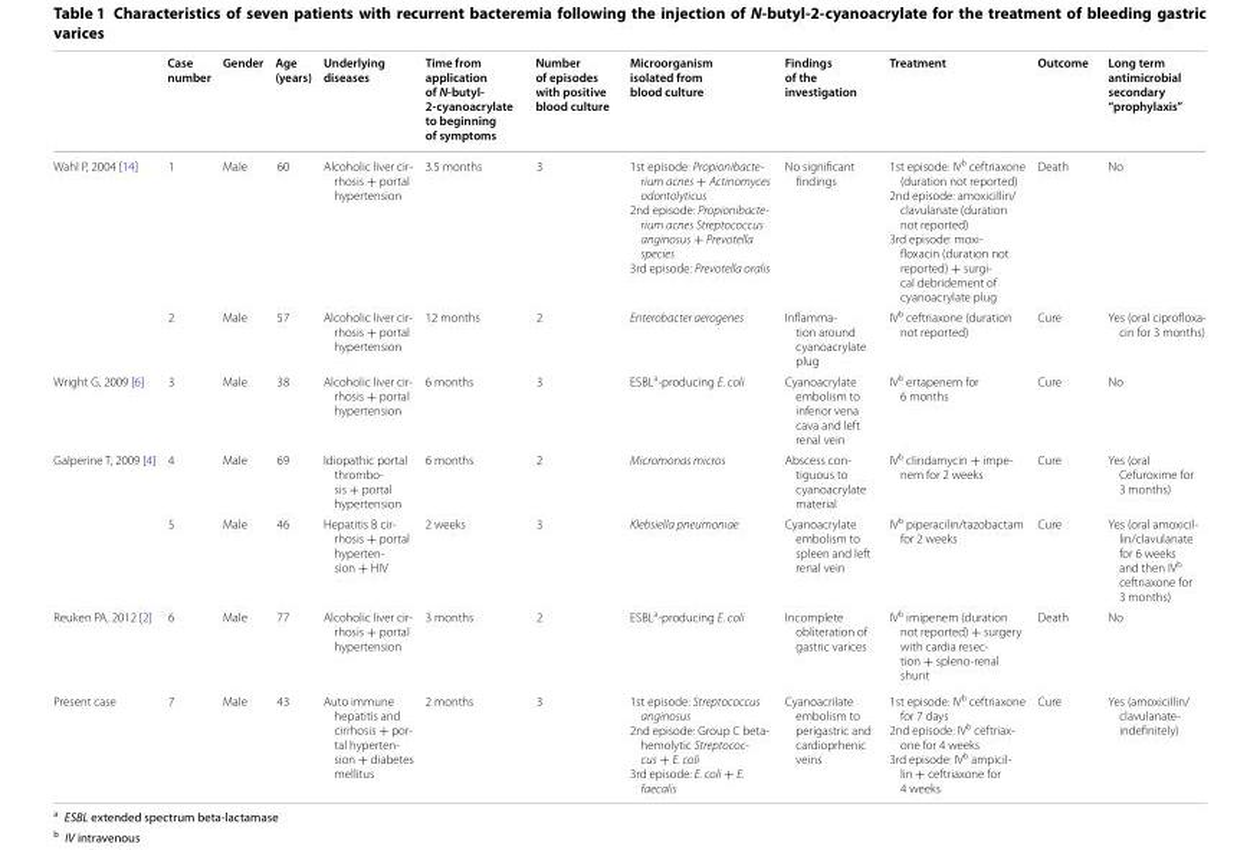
<table><thead><tr><td></td><td>Case number</td><td>Gender</td><td>Age (years)</td><td>Underlying diseases</td><td>Time from application of N-butyl- 2-cyanoacrylate to beginning of symptoms</td><td>Number of episodes with positive blood culture</td><td>Microorganism isolated from blood culture</td><td>Findings of the investigation</td><td>Treatment</td><td>Outcome</td><td>Long term antimicrobial secondary “prophylaxis”</td></tr></thead><tbody><tr><td rowspan="2">Wahl P, 2004 [14]</td><td>1</td><td>Male</td><td>60</td><td>Alcoholic liver cir- rhosis + portal hypertension</td><td>3.5 months</td><td>3</td><td>1st episode: Propionibacte- rium acnes + Actinomyces odontolyticus 2nd episode: Propionibacte- rium acnes Streptococcus anginosus + Prevotella species 3rd episode: Prevotella oralis</td><td>No significant findings</td><td>1st episode: IVb ceftriaxone (duration not reported) 2nd episode: amoxicillin/ clavulanate (duration not reported) 3rd episode: moxi- floxacin (duration not reported) + surgi- cal debridement of cyanoacrylate plug</td><td>Death</td><td>No</td></tr><tr><td>2</td><td>Male</td><td>57</td><td>Alcoholic liver cir- rhosis + portal hypertension</td><td>12 months</td><td>2</td><td>Enterobacter aerogenes</td><td>Inflamma- tion around cyanoacrylate plug</td><td>IV<sup>b</sup> ceftriaxone (duration not reported)</td><td>Cure</td><td>Yes (oral ciprofloxa- cin for 3 months)</td></tr><tr><td>Wright G, 2009 [6]</td><td>3</td><td>Male</td><td>38</td><td>Alcoholic liver cir- rhosis + portal hypertension</td><td>6 months</td><td>3</td><td>ESBL<sup>a</sup>-producing E. coli</td><td>Cyanoacrylate embolism to inferior vena cava and left renal vein</td><td>IV<sup>b</sup> ertapenem for 6 months</td><td>Cure</td><td>No</td></tr><tr><td rowspan="2">Galperine T, 2009 [4]</td><td>4</td><td>Male</td><td>69</td><td>Idiopathic portal thrombo- sis + portal hypertension</td><td>6 months</td><td>2</td><td>Micromonas micros</td><td>Abscess con- tiguous to cyanoacrylate material</td><td>IVb clindamycin + impe- nem for 2 weeks</td><td>Cure</td><td>Yes (oral Cefuroxime for 3 months)</td></tr><tr><td>5</td><td>Male</td><td>46</td><td>Hepatitis B cir- rhosis + portal hyperten- sion + HIV</td><td>2 weeks</td><td>3</td><td>Klebsiella pneumoniae</td><td>Cyanoacrylate embolism to spleen and left renal vein</td><td>IV<sup>b</sup> piperacilin/tazobactam for 2 weeks</td><td>Cure</td><td>Yes (oral amoxicil- lin/clavulanate for 6 weeks and then IVb ceftriaxone for 3 months)</td></tr><tr><td>Reuken PA, 2012 [2]</td><td>6</td><td>Male</td><td>77</td><td>Alcoholic liver cir- rhosis + portal hypertension</td><td>3 months</td><td>2</td><td>ESBL<sup>a</sup>-producing E. coli</td><td>Incomplete obliteration of gastric varices</td><td>IVb imipenem (duration not reported) + surgery with cardia resec- tion + spleno-renal shunt</td><td>Death</td><td>No</td></tr><tr><td>Present case</td><td>7</td><td>Male</td><td>43</td><td>Auto immune hepatitis and cirrhosis + por- tal hyperten- sion + diabetes mellitus</td><td>2 months</td><td>3</td><td>1st episode: Streptococcus anginosus 2nd episode: Group C beta- hemolytic Streptococ- cus + E. coli 3rd episode: E. coli + E. faecalis</td><td>Cyanoacrilate embolism to perigastric and cardioprhenic veins</td><td>1st episode: IVb ceftriaxone for 7 days 2nd episode: IVb ceftriax- one for 4 weeks 3rd episode: IVb ampicil- lin + ceftriaxone for 4 weeks</td><td>Cure</td><td>Yes (amoxicillin/ clavulanate- indefinitely)</td></tr></tbody></table>